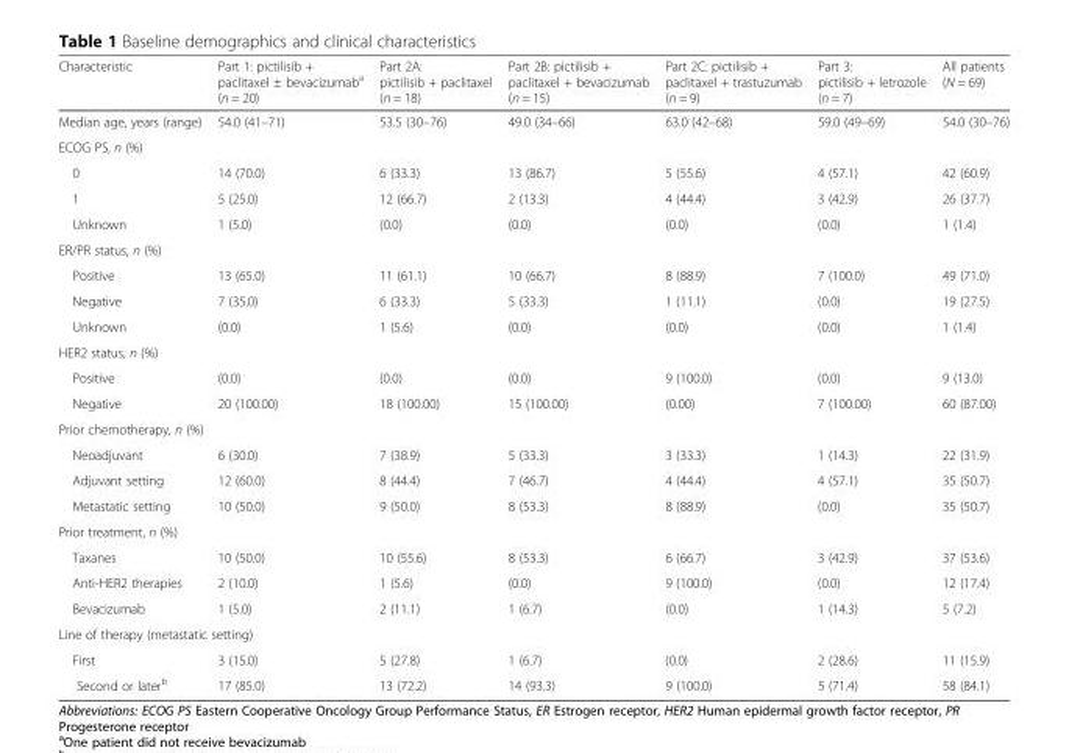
<table><thead><tr><td>Characteristic</td><td>Part 1: pictilisib + paclitaxel ± bevacizumab<sup>a</sup> (n = 20)</td><td>Part 2A: pictilisib + paclitaxel (n = 18)</td><td>Part 2B: pictilisib + paclitaxel + bevacizumab (n = 15)</td><td>Part 2C: pictilisib + paclitaxel + trastuzumab (n = 9)</td><td>Part 3: pictilisib + letrozole (n = 7)</td><td>All patients (N = 69)</td></tr></thead><tbody><tr><td>Median age, years (range)</td><td>54.0 (41–71)</td><td>53.5 (30–76)</td><td>49.0 (34–66)</td><td>63.0 (42–68)</td><td>59.0 (49–69)</td><td>54.0 (30–76)</td></tr><tr><td colspan="7">ECOG PS, n (%)</td></tr><tr><td>0</td><td>14 (70.0)</td><td>6 (33.3)</td><td>13 (86.7)</td><td>5 (55.6)</td><td>4 (57.1)</td><td>42 (60.9)</td></tr><tr><td>1</td><td>5 (25.0)</td><td>12 (66.7)</td><td>2 (13.3)</td><td>4 (44.4)</td><td>3 (42.9)</td><td>26 (37.7)</td></tr><tr><td>Unknown</td><td>1 (5.0)</td><td>(0.0)</td><td>(0.0)</td><td>(0.0)</td><td>(0.0)</td><td>1 (1.4)</td></tr><tr><td colspan="7">ER/PR status, n (%)</td></tr><tr><td>Positive</td><td>13 (65.0)</td><td>11 (61.1)</td><td>10 (66.7)</td><td>8 (88.9)</td><td>7 (100.0)</td><td>49 (71.0)</td></tr><tr><td>Negative</td><td>7 (35.0)</td><td>6 (33.3)</td><td>5 (33.3)</td><td>1 (11.1)</td><td>(0.0)</td><td>19 (27.5)</td></tr><tr><td>Unknown</td><td>(0.0)</td><td>1 (5.6)</td><td>(0.0)</td><td>(0.0)</td><td>(0.0)</td><td>1 (1.4)</td></tr><tr><td colspan="7">HER2 status, n (%)</td></tr><tr><td>Positive</td><td>(0.0)</td><td>(0.0)</td><td>(0.0)</td><td>9 (100.0)</td><td>(0.0)</td><td>9 (13.0)</td></tr><tr><td>Negative</td><td>20 (100.00)</td><td>18 (100.00)</td><td>15 (100.00)</td><td>(0.00)</td><td>7 (100.00)</td><td>60 (87.00)</td></tr><tr><td colspan="7">Prior chemotherapy, n (%)</td></tr><tr><td>Neoadjuvant</td><td>6 (30.0)</td><td>7 (38.9)</td><td>5 (33.3)</td><td>3 (33.3)</td><td>1 (14.3)</td><td>22 (31.9)</td></tr><tr><td>Adjuvant setting</td><td>12 (60.0)</td><td>8 (44.4)</td><td>7 (46.7)</td><td>4 (44.4)</td><td>4 (57.1)</td><td>35 (50.7)</td></tr><tr><td>Metastatic setting</td><td>10 (50.0)</td><td>9 (50.0)</td><td>8 (53.3)</td><td>8 (88.9)</td><td>(0.0)</td><td>35 (50.7)</td></tr><tr><td colspan="7">Prior treatment, n (%)</td></tr><tr><td>Taxanes</td><td>10 (50.0)</td><td>10 (55.6)</td><td>8 (53.3)</td><td>6 (66.7)</td><td>3 (42.9)</td><td>37 (53.6)</td></tr><tr><td>Anti-HER2 therapies</td><td>2 (10.0)</td><td>1 (5.6)</td><td>(0.0)</td><td>9 (100.0)</td><td>(0.0)</td><td>12 (17.4)</td></tr><tr><td>Bevacizumab</td><td>1 (5.0)</td><td>2 (11.1)</td><td>1 (6.7)</td><td>(0.0)</td><td>1 (14.3)</td><td>5 (7.2)</td></tr><tr><td colspan="7">Line of therapy (metastatic setting)</td></tr><tr><td>First</td><td>3 (15.0)</td><td>5 (27.8)</td><td>1 (6.7)</td><td>(0.0)</td><td>2 (28.6)</td><td>11 (15.9)</td></tr><tr><td>Second or later<sup>b</sup></td><td>17 (85.0)</td><td>13 (72.2)</td><td>14 (93.3)</td><td>9 (100.0)</td><td>5 (71.4)</td><td>58 (84.1)</td></tr></tbody></table>